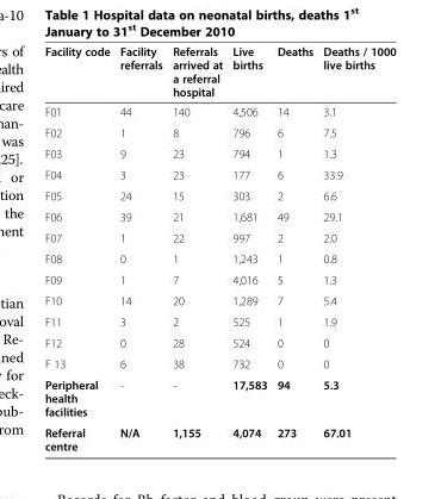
<table><thead><tr><td>Facility code</td><td>Facility referrals</td><td>Referrals arrived at a referral hospital</td><td>Live births</td><td>Deaths</td><td>Deaths / 1000 live births</td></tr></thead><tbody><tr><td>F01</td><td>44</td><td>140</td><td>4,506</td><td>14</td><td>3.1</td></tr><tr><td>F02</td><td>1</td><td>8</td><td>796</td><td>6</td><td>7.5</td></tr><tr><td>F03</td><td>9</td><td>23</td><td>794</td><td>1</td><td>1.3</td></tr><tr><td>F04</td><td>3</td><td>23</td><td>177</td><td>6</td><td>33.9</td></tr><tr><td>F05</td><td>24</td><td>15</td><td>303</td><td>2</td><td>6.6</td></tr><tr><td>F06</td><td>39</td><td>21</td><td>1,681</td><td>49</td><td>29.1</td></tr><tr><td>F07</td><td>1</td><td>22</td><td>997</td><td>2</td><td>2.0</td></tr><tr><td>F08</td><td>0</td><td>1</td><td>1,243</td><td>1</td><td>0.8</td></tr><tr><td>F09</td><td>1</td><td>7</td><td>4,016</td><td>5</td><td>1.3</td></tr><tr><td>F10</td><td>14</td><td>20</td><td>1,289</td><td>7</td><td>5.4</td></tr><tr><td>F11</td><td>3</td><td>2</td><td>525</td><td>1</td><td>1.9</td></tr><tr><td>F12</td><td>0</td><td>28</td><td>524</td><td>0</td><td>0</td></tr><tr><td>F 13</td><td>6</td><td>38</td><td>732</td><td>0</td><td>0</td></tr><tr><td>Peripheral health facilities</td><td>-</td><td>-</td><td>17,583</td><td>94</td><td>5.3</td></tr><tr><td>Referral centre</td><td>N/A</td><td>1,155</td><td>4,074</td><td>273</td><td>67.01</td></tr></tbody></table>